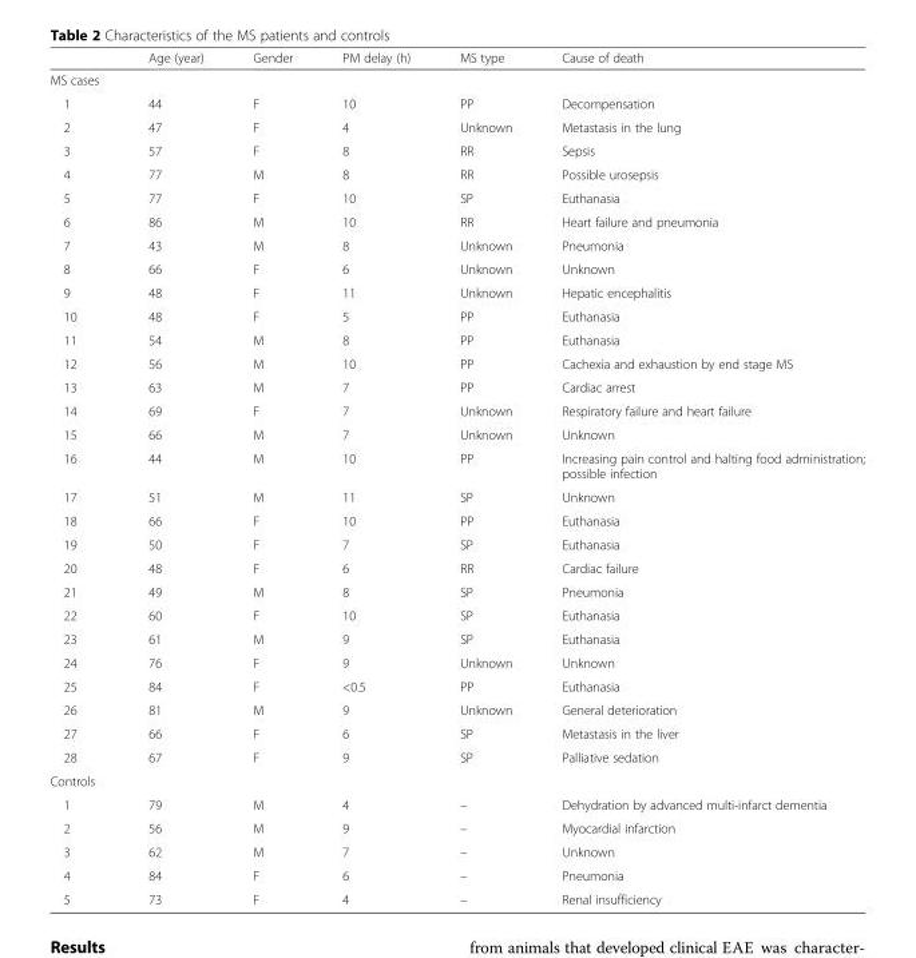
<table><thead><tr><td></td><td>Age (year)</td><td>Gender</td><td>PM delay (h)</td><td>MS type</td><td>Cause of death</td></tr></thead><tbody><tr><td colspan="6">MS cases</td></tr><tr><td>1</td><td>44</td><td>F</td><td>10</td><td>PP</td><td>Decompensation</td></tr><tr><td>2</td><td>47</td><td>F</td><td>4</td><td>Unknown</td><td>Metastasis in the lung</td></tr><tr><td>3</td><td>57</td><td>F</td><td>8</td><td>RR</td><td>Sepsis</td></tr><tr><td>4</td><td>77</td><td>M</td><td>8</td><td>RR</td><td>Possible urosepsis</td></tr><tr><td>5</td><td>77</td><td>F</td><td>10</td><td>SP</td><td>Euthanasia</td></tr><tr><td>6</td><td>86</td><td>M</td><td>10</td><td>RR</td><td>Heart failure and pneumonia</td></tr><tr><td>7</td><td>43</td><td>M</td><td>8</td><td>Unknown</td><td>Pneumonia</td></tr><tr><td>8</td><td>66</td><td>F</td><td>6</td><td>Unknown</td><td>Unknown</td></tr><tr><td>9</td><td>48</td><td>F</td><td>11</td><td>Unknown</td><td>Hepatic encephalitis</td></tr><tr><td>10</td><td>48</td><td>F</td><td>5</td><td>PP</td><td>Euthanasia</td></tr><tr><td>11</td><td>54</td><td>M</td><td>8</td><td>PP</td><td>Euthanasia</td></tr><tr><td>12</td><td>56</td><td>M</td><td>10</td><td>PP</td><td>Cachexia and exhaustion by end stage MS</td></tr><tr><td>13</td><td>63</td><td>M</td><td>7</td><td>PP</td><td>Cardiac arrest</td></tr><tr><td>14</td><td>69</td><td>F</td><td>7</td><td>Unknown</td><td>Respiratory failure and heart failure</td></tr><tr><td>15</td><td>66</td><td>M</td><td>7</td><td>Unknown</td><td>Unknown</td></tr><tr><td>16</td><td>44</td><td>M</td><td>10</td><td>PP</td><td>Increasing pain control and halting food administration; possible infection</td></tr><tr><td>17</td><td>51</td><td>M</td><td>11</td><td>SP</td><td>Unknown</td></tr><tr><td>18</td><td>66</td><td>F</td><td>10</td><td>PP</td><td>Euthanasia</td></tr><tr><td>19</td><td>50</td><td>F</td><td>7</td><td>SP</td><td>Euthanasia</td></tr><tr><td>20</td><td>48</td><td>F</td><td>6</td><td>RR</td><td>Cardiac failure</td></tr><tr><td>21</td><td>49</td><td>M</td><td>8</td><td>SP</td><td>Pneumonia</td></tr><tr><td>22</td><td>60</td><td>F</td><td>10</td><td>SP</td><td>Euthanasia</td></tr><tr><td>23</td><td>61</td><td>M</td><td>9</td><td>SP</td><td>Euthanasia</td></tr><tr><td>24</td><td>76</td><td>F</td><td>9</td><td>Unknown</td><td>Unknown</td></tr><tr><td>25</td><td>84</td><td>F</td><td>&lt;0.5</td><td>PP</td><td>Euthanasia</td></tr><tr><td>26</td><td>81</td><td>M</td><td>9</td><td>Unknown</td><td>General deterioration</td></tr><tr><td>27</td><td>66</td><td>F</td><td>6</td><td>SP</td><td>Metastasis in the liver</td></tr><tr><td>28</td><td>67</td><td>F</td><td>9</td><td>SP</td><td>Palliative sedation</td></tr><tr><td colspan="6">Controls</td></tr><tr><td>1</td><td>79</td><td>M</td><td>4</td><td>–</td><td>Dehydration by advanced multi-infarct dementia</td></tr><tr><td>2</td><td>56</td><td>M</td><td>9</td><td>–</td><td>Myocardial infarction</td></tr><tr><td>3</td><td>62</td><td>M</td><td>7</td><td>–</td><td>Unknown</td></tr><tr><td>4</td><td>84</td><td>F</td><td>6</td><td>–</td><td>Pneumonia</td></tr><tr><td>5</td><td>73</td><td>F</td><td>4</td><td>–</td><td>Renal insufficiency</td></tr></tbody></table>